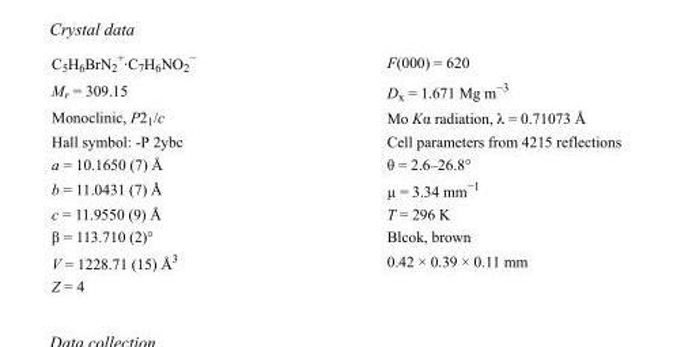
<table><tbody><tr><td>C<sub>5</sub>H<sub>6</sub>BrN<sub>2</sub> <sup>+</sup>·C<sub>7</sub>H<sub>6</sub>NO<sub>2</sub> <sup>−</sup></td><td>F(000) = 620</td></tr><tr><td>M<sub>r</sub> = 309.15</td><td>D<sub>x</sub> = 1.671 Mg m<sup>−3</sup></td></tr><tr><td>Monoclinic, P2<sub>1</sub>/c</td><td>Mo Kα radiation, λ = 0.71073 Å</td></tr><tr><td>Hall symbol: -P 2ybc</td><td>Cell parameters from 4215 reflections</td></tr><tr><td>a = 10.1650 (7) Å</td><td>θ = 2.6–26.8°</td></tr><tr><td>b = 11.0431 (7) Å</td><td>µ = 3.34 mm<sup>−1</sup></td></tr><tr><td>c = 11.9550 (9) Å</td><td>T = 296 K</td></tr><tr><td>β = 113.710 (2)°</td><td>Blcok, brown</td></tr><tr><td>V = 1228.71 (15) Å<sup>3</sup></td><td>0.42 × 0.39 × 0.11 mm</td></tr><tr><td>Z = 4</td><td></td></tr></tbody></table>